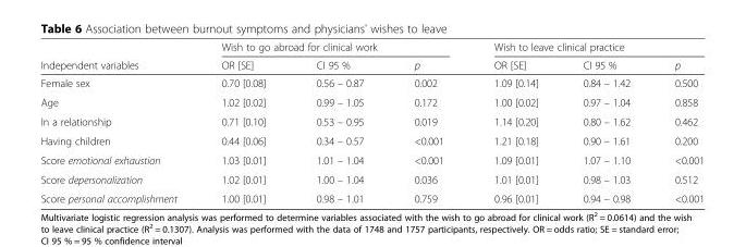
<table><thead><tr><td rowspan="2">Independent variables</td><td colspan="3">Wish to go abroad for clinical work</td><td colspan="3">Wish to leave clinical practice</td></tr><tr><td>OR [SE]</td><td>CI 95 %</td><td>p</td><td>OR [SE]</td><td>CI 95 %</td><td>p</td></tr></thead><tbody><tr><td>Female sex</td><td>0.70 [0.08]</td><td>0.56 – 0.87</td><td>0.002</td><td>1.09 [0.14]</td><td>0.84 – 1.42</td><td>0.500</td></tr><tr><td>Age</td><td>1.02 [0.02]</td><td>0.99 – 1.05</td><td>0.172</td><td>1.00 [0.02]</td><td>0.97 – 1.04</td><td>0.858</td></tr><tr><td>In a relationship</td><td>0.71 [0.10]</td><td>0.53 – 0.95</td><td>0.019</td><td>1.14 [0.20]</td><td>0.80 – 1.62</td><td>0.462</td></tr><tr><td>Having children</td><td>0.44 [0.06]</td><td>0.34 – 0.57</td><td>&lt;0.001</td><td>1.21 [0.18]</td><td>0.90 – 1.61</td><td>0.200</td></tr><tr><td>Score emotional exhaustion</td><td>1.03 [0.01]</td><td>1.01 – 1.04</td><td>&lt;0.001</td><td>1.09 [0.01]</td><td>1.07 – 1.10</td><td>&lt;0.001</td></tr><tr><td>Score depersonalization</td><td>1.02 [0.01]</td><td>1.00 – 1.04</td><td>0.036</td><td>1.01 [0.01]</td><td>0.98 – 1.03</td><td>0.512</td></tr><tr><td>Score personal accomplishment</td><td>1.00 [0.01]</td><td>0.98 – 1.01</td><td>0.759</td><td>0.96 [0.01]</td><td>0.94 – 0.98</td><td>&lt;0.001</td></tr></tbody></table>